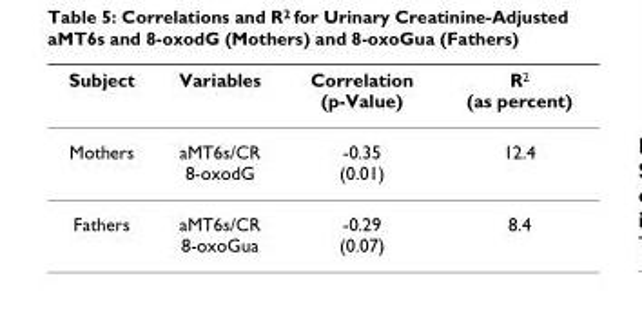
<table><thead><tr><td>Subject</td><td>Variables</td><td>Correlation (p-Value)</td><td>R<sup>2</sup> (as percent)</td></tr></thead><tbody><tr><td>Mothers</td><td>aMT6s/CR 8-oxodG</td><td>-0.35 (0.01)</td><td>12.4</td></tr><tr><td>Fathers</td><td>aMT6s/CR 8-oxoGua</td><td>-0.29 (0.07)</td><td>8.4</td></tr></tbody></table>